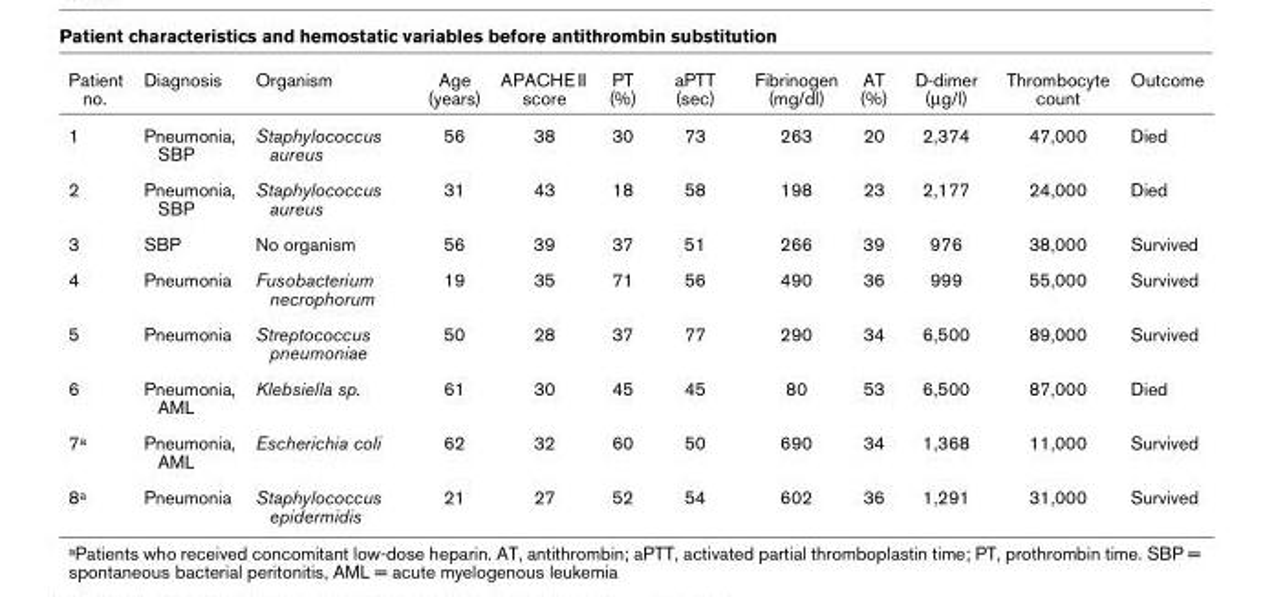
<table><thead><tr><td>Patient no.</td><td>Diagnosis</td><td>Organism</td><td>Age (years)</td><td>APACHE II score</td><td>PT (%)</td><td>aPTT (sec)</td><td>Fibrinogen (mg/dl)</td><td>AT (%)</td><td>D-dimer (µg/l)</td><td>Thrombocyte count</td><td>Outcome</td></tr></thead><tbody><tr><td>1</td><td>Pneumonia, SBP</td><td>Staphylococcus aureus</td><td>56</td><td>38</td><td>30</td><td>73</td><td>263</td><td>20</td><td>2,374</td><td>47,000</td><td>Died</td></tr><tr><td>2</td><td>Pneumonia, SBP</td><td>Staphylococcus aureus</td><td>31</td><td>43</td><td>18</td><td>58</td><td>198</td><td>23</td><td>2,177</td><td>24,000</td><td>Died</td></tr><tr><td>3</td><td>SBP</td><td>No organism</td><td>56</td><td>39</td><td>37</td><td>51</td><td>266</td><td>39</td><td>976</td><td>38,000</td><td>Survived</td></tr><tr><td>4</td><td>Pneumonia</td><td>Fusobacterium necrophorum</td><td>19</td><td>35</td><td>71</td><td>56</td><td>490</td><td>36</td><td>999</td><td>55,000</td><td>Survived</td></tr><tr><td>5</td><td>Pneumonia</td><td>Streptococcus pneumoniae</td><td>50</td><td>28</td><td>37</td><td>77</td><td>290</td><td>34</td><td>6,500</td><td>89,000</td><td>Survived</td></tr><tr><td>6</td><td>Pneumonia, AML</td><td>Klebsiella sp.</td><td>61</td><td>30</td><td>45</td><td>45</td><td>80</td><td>53</td><td>6,500</td><td>87,000</td><td>Died</td></tr><tr><td>7a</td><td>Pneumonia, AML</td><td>Escherichia coli</td><td>62</td><td>32</td><td>60</td><td>50</td><td>690</td><td>34</td><td>1,368</td><td>11,000</td><td>Survived</td></tr><tr><td>8a</td><td>Pneumonia</td><td>Staphylococcus epidermidis</td><td>21</td><td>27</td><td>52</td><td>54</td><td>602</td><td>36</td><td>1,291</td><td>31,000</td><td>Survived</td></tr></tbody></table>